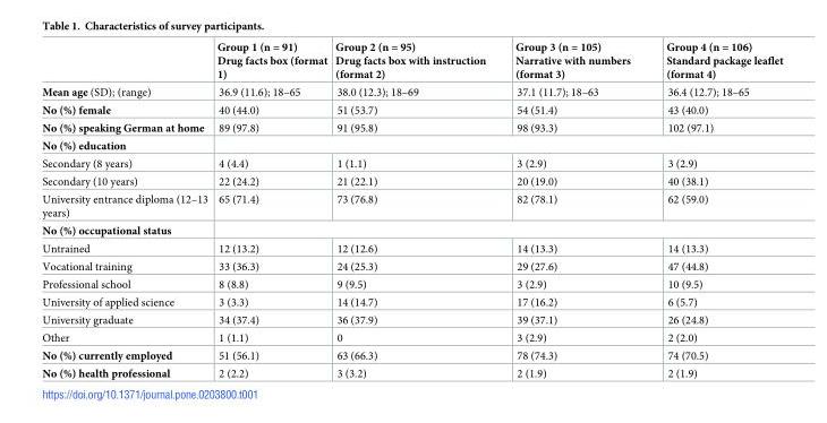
<table><thead><tr><td></td><td>Group 1 (n = 91) Drug facts box (format 1)</td><td>Group 2 (n = 95) Drug facts box with instruction (format 2)</td><td>Group 3 (n = 105) Narrative with numbers (format 3)</td><td>Group 4 (n = 106) Standard package leaflet (format 4)</td></tr></thead><tbody><tr><td>Mean age (SD); (range)</td><td>36.9 (11.6); 18–65</td><td>38.0 (12.3); 18–69</td><td>37.1 (11.7); 18–63</td><td>36.4 (12.7); 18–65</td></tr><tr><td>No (%) female</td><td>40 (44.0)</td><td>51 (53.7)</td><td>54 (51.4)</td><td>43 (40.0)</td></tr><tr><td>No (%) speaking German at home</td><td>89 (97.8)</td><td>91 (95.8)</td><td>98 (93.3)</td><td>102 (97.1)</td></tr><tr><td colspan="5">No (%) education</td></tr><tr><td>Secondary (8 years)</td><td>4 (4.4)</td><td>1 (1.1)</td><td>3 (2.9)</td><td>3 (2.9)</td></tr><tr><td>Secondary (10 years)</td><td>22 (24.2)</td><td>21 (22.1)</td><td>20 (19.0)</td><td>40 (38.1)</td></tr><tr><td>University entrance diploma (12–13 years)</td><td>65 (71.4)</td><td>73 (76.8)</td><td>82 (78.1)</td><td>62 (59.0)</td></tr><tr><td colspan="5">No (%) occupational status</td></tr><tr><td>Untrained</td><td>12 (13.2)</td><td>12 (12.6)</td><td>14 (13.3)</td><td>14 (13.3)</td></tr><tr><td>Vocational training</td><td>33 (36.3)</td><td>24 (25.3)</td><td>29 (27.6)</td><td>47 (44.8)</td></tr><tr><td>Professional school</td><td>8 (8.8)</td><td>9 (9.5)</td><td>3 (2.9)</td><td>10 (9.5)</td></tr><tr><td>University of applied science</td><td>3 (3.3)</td><td>14 (14.7)</td><td>17 (16.2)</td><td>6 (5.7)</td></tr><tr><td>University graduate</td><td>34 (37.4)</td><td>36 (37.9)</td><td>39 (37.1)</td><td>26 (24.8)</td></tr><tr><td>Other</td><td>1 (1.1)</td><td>0</td><td>3 (2.9)</td><td>2 (2.0)</td></tr><tr><td>No (%) currently employed</td><td>51 (56.1)</td><td>63 (66.3)</td><td>78 (74.3)</td><td>74 (70.5)</td></tr><tr><td>No (%) health professional</td><td>2 (2.2)</td><td>3 (3.2)</td><td>2 (1.9)</td><td>2 (1.9)</td></tr></tbody></table>